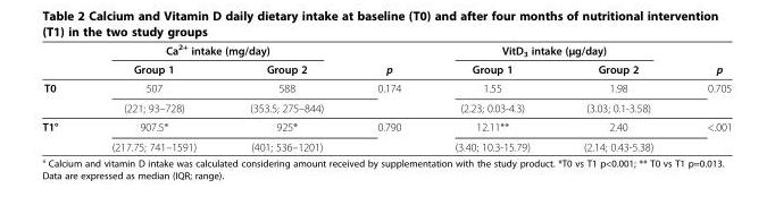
<table><thead><tr><td rowspan="2"></td><td colspan="2">Ca<sup>2+</sup> intake (mg/day)</td><td rowspan="2">p</td><td colspan="2">VitD<sub>3</sub> intake (μg/day)</td><td rowspan="2">p</td></tr><tr><td>Group 1</td><td>Group 2</td><td>Group 1</td><td>Group 2</td></tr></thead><tbody><tr><td rowspan="2">T0</td><td>507</td><td>588</td><td>0.174</td><td>1.55</td><td>1.98</td><td rowspan="2">0.705</td></tr><tr><td>(221; 93–728)</td><td>(353.5; 275–844)</td><td></td><td>(2.23; 0.03-4.3)</td><td>(3.03; 0.1-3.58)</td></tr><tr><td rowspan="2">T1°</td><td>907.5*</td><td>925*</td><td>0.790</td><td>12.11**</td><td>2.40</td><td rowspan="2">&lt;.001</td></tr><tr><td>(217.75; 741–1591)</td><td>(401; 536–1201)</td><td></td><td>(3.40; 10.3-15.79)</td><td>(2.14; 0.43-5.38)</td></tr></tbody></table>